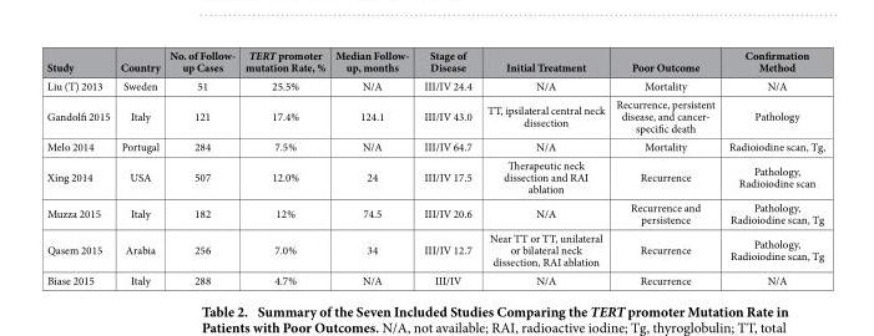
<table><thead><tr><td>Study</td><td>Country</td><td>No. of Follow- up Cases</td><td>TERT promoter mutation Rate, %</td><td>Median Follow- up, months</td><td>Stage of Disease</td><td>Initial Treatment</td><td>Poor Outcome</td><td>Confirmation Method</td></tr></thead><tbody><tr><td>Liu (T) 2013</td><td>Sweden</td><td>51</td><td>25.5%</td><td>N/A</td><td>III/IV 24.4</td><td>N/A</td><td>Mortality</td><td>N/A</td></tr><tr><td>Gandolfi 2015</td><td>Italy</td><td>121</td><td>17.4%</td><td>124.1</td><td>III/IV 43.0</td><td>TT, ipsilateral central neck dissection</td><td>Recurrence, persistent disease, and cancer- specific death</td><td>Pathology</td></tr><tr><td>Melo 2014</td><td>Portugal</td><td>284</td><td>7.5%</td><td>N/A</td><td>III/IV 64.7</td><td>N/A</td><td>Mortality</td><td>Radioiodine scan, Tg,</td></tr><tr><td>Xing 2014</td><td>USA</td><td>507</td><td>12.0%</td><td>24</td><td>III/IV 17.5</td><td>Therapeutic neck dissection and RAI ablation</td><td>Recurrence</td><td>Pathology, Radioiodine scan</td></tr><tr><td>Muzza 2015</td><td>Italy</td><td>182</td><td>12%</td><td>74.5</td><td>III/IV 20.6</td><td>N/A</td><td>Recurrence and persistence</td><td>Pathology, Radioiodine scan, Tg</td></tr><tr><td>Qasem 2015</td><td>Arabia</td><td>256</td><td>7.0%</td><td>34</td><td>III/IV 12.7</td><td>Near TT or TT, unilateral or bilateral neck dissection, RAI ablation</td><td>Recurrence</td><td>Pathology, Radioiodine scan, Tg</td></tr><tr><td>Biase 2015</td><td>Italy</td><td>288</td><td>4.7%</td><td>N/A</td><td>III/IV</td><td>N/A</td><td>Recurrence</td><td>N/A</td></tr></tbody></table>